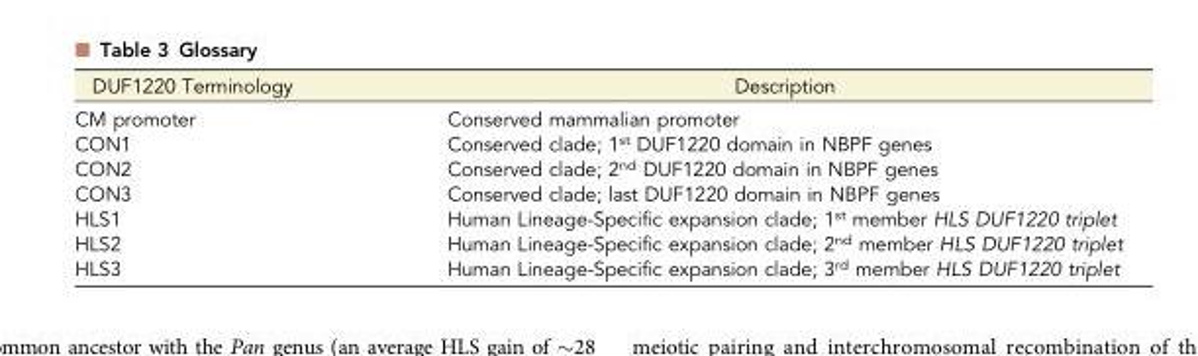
<table><thead><tr><td>DUF1220 Terminology</td><td>Description</td></tr></thead><tbody><tr><td>CM promoter</td><td>Conserved mammalian promoter</td></tr><tr><td>CON1</td><td>Conserved clade; 1<sup>st</sup> DUF1220 domain in NBPF genes</td></tr><tr><td>CON2</td><td>Conserved clade; 2<sup>nd</sup> DUF1220 domain in NBPF genes</td></tr><tr><td>CON3</td><td>Conserved clade; last DUF1220 domain in NBPF genes</td></tr><tr><td>HLS1</td><td>Human Lineage-Specific expansion clade; 1<sup>st</sup> member HLS DUF1220 triplet</td></tr><tr><td>HLS2</td><td>Human Lineage-Specific expansion clade; 2<sup>nd</sup> member HLS DUF1220 triplet</td></tr><tr><td>HLS3</td><td>Human Lineage-Specific expansion clade; 3<sup>rd</sup> member HLS DUF1220 triplet</td></tr></tbody></table>